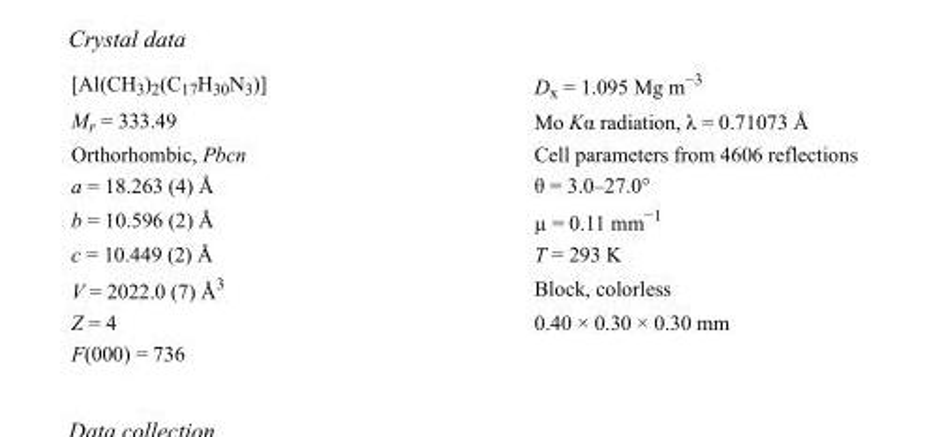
<table><tbody><tr><td>[Al(CH<sub>3</sub>)<sub>2</sub>(C<sub>17</sub>H<sub>30</sub>N<sub>3</sub>)]</td><td>D<sub>x</sub> = 1.095 Mg m<sup>−3</sup></td></tr><tr><td>M<sub>r</sub> = 333.49</td><td>Mo Kα radiation, λ = 0.71073 Å</td></tr><tr><td>Orthorhombic, Pbcn</td><td>Cell parameters from 4606 reflections</td></tr><tr><td>a = 18.263 (4) Å</td><td>θ = 3.0–27.0°</td></tr><tr><td>b = 10.596 (2) Å</td><td>µ = 0.11 mm<sup>−1</sup></td></tr><tr><td>c = 10.449 (2) Å</td><td>T = 293 K</td></tr><tr><td>V = 2022.0 (7) Å<sup>3</sup></td><td>Block, colorless</td></tr><tr><td>Z = 4</td><td>0.40 × 0.30 × 0.30 mm</td></tr><tr><td>F(000) = 736</td><td></td></tr></tbody></table>